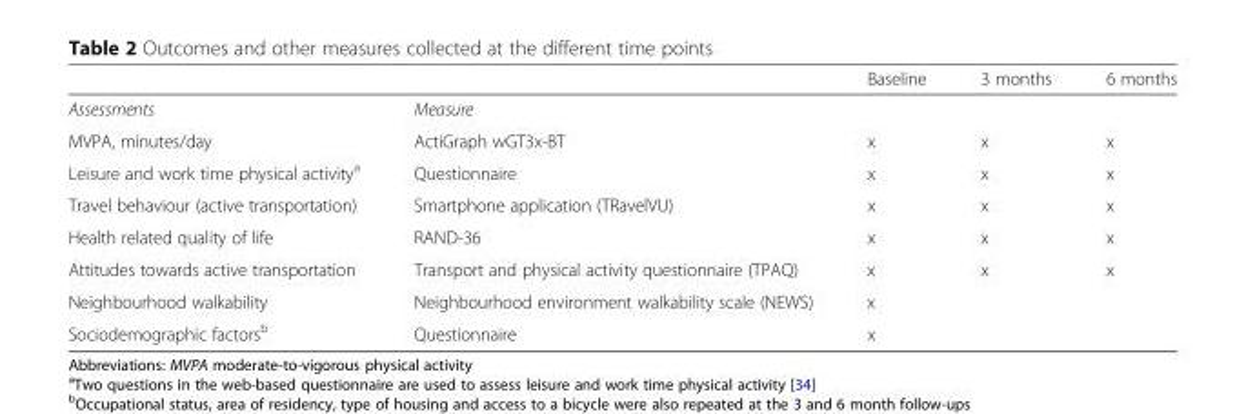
<table><thead><tr><td></td><td></td><td>Baseline</td><td>3 months</td><td>6 months</td></tr></thead><tbody><tr><td>Assessments</td><td>Measure</td><td></td><td></td><td></td></tr><tr><td>MVPA, minutes/day</td><td>ActiGraph wGT3x-BT</td><td>x</td><td>x</td><td>x</td></tr><tr><td>Leisure and work time physical activity<sup>a</sup></td><td>Questionnaire</td><td>x</td><td>x</td><td>x</td></tr><tr><td>Travel behaviour (active transportation)</td><td>Smartphone application (TRavelVU)</td><td>x</td><td>x</td><td>x</td></tr><tr><td>Health related quality of life</td><td>RAND-36</td><td>x</td><td>x</td><td>x</td></tr><tr><td>Attitudes towards active transportation</td><td>Transport and physical activity questionnaire (TPAQ)</td><td>x</td><td>x</td><td>x</td></tr><tr><td>Neighbourhood walkability</td><td>Neighbourhood environment walkability scale (NEWS)</td><td>x</td><td></td><td></td></tr><tr><td>Sociodemographic factors<sup>b</sup></td><td>Questionnaire</td><td>x</td><td></td><td></td></tr></tbody></table>